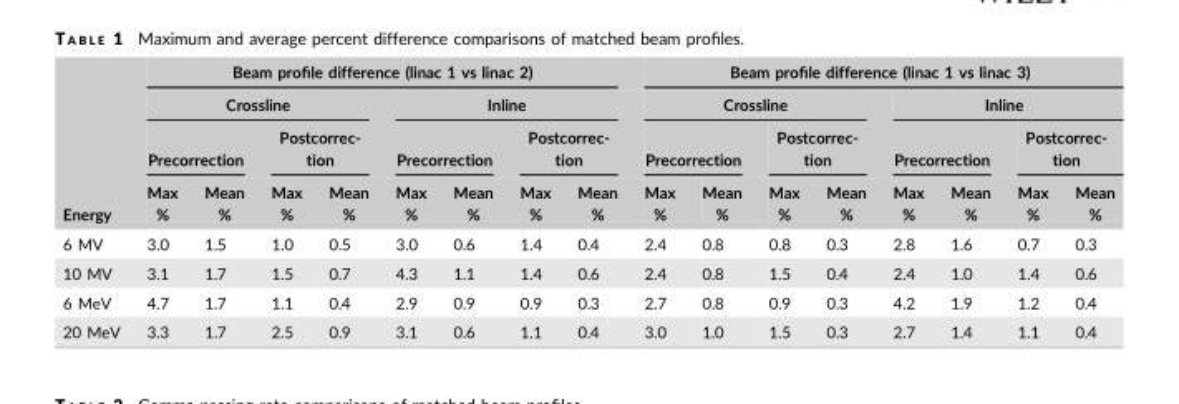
<table><thead><tr><td rowspan="4">Energy</td><td colspan="8">Beam profile difference (linac 1 vs linac 2)</td><td colspan="8">Beam profile difference (linac 1 vs linac 3)</td></tr><tr><td colspan="4">Crossline</td><td colspan="4">Inline</td><td colspan="4">Crossline</td><td colspan="4">Inline</td></tr><tr><td colspan="2">Precorrection</td><td colspan="2">Postcorrec- tion</td><td colspan="2">Precorrection</td><td colspan="2">Postcorrec- tion</td><td colspan="2">Precorrection</td><td colspan="2">Postcorrec- tion</td><td colspan="2">Precorrection</td><td colspan="2">Postcorrec- tion</td></tr><tr><td>Max %</td><td>Mean %</td><td>Max %</td><td>Mean %</td><td>Max %</td><td>Mean %</td><td>Max %</td><td>Mean %</td><td>Max %</td><td>Mean %</td><td>Max %</td><td>Mean %</td><td>Max %</td><td>Mean %</td><td>Max %</td><td>Mean %</td></tr></thead><tbody><tr><td>6 MV</td><td>3.0</td><td>1.5</td><td>1.0</td><td>0.5</td><td>3.0</td><td>0.6</td><td>1.4</td><td>0.4</td><td>2.4</td><td>0.8</td><td>0.8</td><td>0.3</td><td>2.8</td><td>1.6</td><td>0.7</td><td>0.3</td></tr><tr><td>10 MV</td><td>3.1</td><td>1.7</td><td>1.5</td><td>0.7</td><td>4.3</td><td>1.1</td><td>1.4</td><td>0.6</td><td>2.4</td><td>0.8</td><td>1.5</td><td>0.4</td><td>2.4</td><td>1.0</td><td>1.4</td><td>0.6</td></tr><tr><td>6 MeV</td><td>4.7</td><td>1.7</td><td>1.1</td><td>0.4</td><td>2.9</td><td>0.9</td><td>0.9</td><td>0.3</td><td>2.7</td><td>0.8</td><td>0.9</td><td>0.3</td><td>4.2</td><td>1.9</td><td>1.2</td><td>0.4</td></tr><tr><td>20 MeV</td><td>3.3</td><td>1.7</td><td>2.5</td><td>0.9</td><td>3.1</td><td>0.6</td><td>1.1</td><td>0.4</td><td>3.0</td><td>1.0</td><td>1.5</td><td>0.3</td><td>2.7</td><td>1.4</td><td>1.1</td><td>0.4</td></tr></tbody></table>